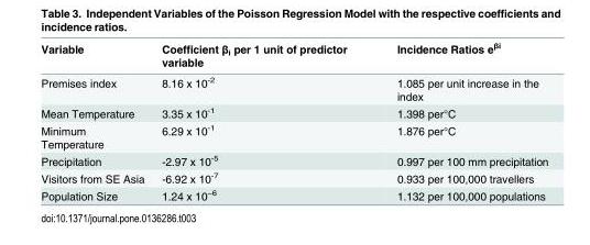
<table><thead><tr><td>Variable</td><td>Coefficient β<sub>i</sub> per 1 unit of predictor variable</td><td>Incidence Ratios e<sup>βi</sup></td></tr></thead><tbody><tr><td>Premises index</td><td>8.16 x 10<sup>-2</sup></td><td>1.085 per unit increase in the index</td></tr><tr><td>Mean Temperature</td><td>3.35 x 10<sup>-1</sup></td><td>1.398 per°C</td></tr><tr><td>Minimum Temperature</td><td>6.29 x 10<sup>-1</sup></td><td>1.876 per°C</td></tr><tr><td>Precipitation</td><td>-2.97 x 10<sup>-5</sup></td><td>0.997 per 100 mm precipitation</td></tr><tr><td>Visitors from SE Asia</td><td>-6.92 x 10<sup>-7</sup></td><td>0.933 per 100,000 travellers</td></tr><tr><td>Population Size</td><td>1.24 x 10<sup>−6</sup></td><td>1.132 per 100,000 populations</td></tr></tbody></table>